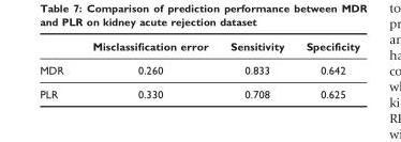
<table><thead><tr><td></td><td>Misclassification error</td><td>Sensitivity</td><td>Specificity</td></tr></thead><tbody><tr><td>MDR</td><td>0.260</td><td>0.833</td><td>0.642</td></tr><tr><td>PLR</td><td>0.330</td><td>0.708</td><td>0.625</td></tr></tbody></table>